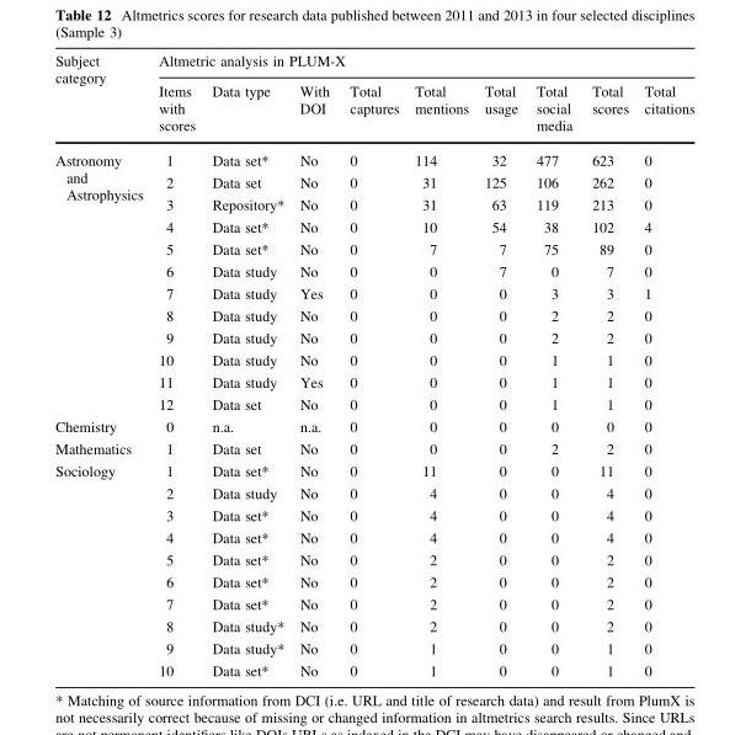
<table><thead><tr><td rowspan="2">Subject category</td><td colspan="9">Altmetric analysis in PLUM-X</td></tr><tr><td>Items with scores</td><td>Data type</td><td>With DOI</td><td>Total captures</td><td>Total mentions</td><td>Total usage</td><td>Total social media</td><td>Total scores</td><td>Total citations</td></tr></thead><tbody><tr><td rowspan="12">Astronomy and Astrophysics</td><td>1</td><td>Data set*</td><td>No</td><td>0</td><td>114</td><td>32</td><td>477</td><td>623</td><td>0</td></tr><tr><td>2</td><td>Data set</td><td>No</td><td>0</td><td>31</td><td>125</td><td>106</td><td>262</td><td>0</td></tr><tr><td>3</td><td>Repository*</td><td>No</td><td>0</td><td>31</td><td>63</td><td>119</td><td>213</td><td>0</td></tr><tr><td>4</td><td>Data set*</td><td>No</td><td>0</td><td>10</td><td>54</td><td>38</td><td>102</td><td>4</td></tr><tr><td>5</td><td>Data set*</td><td>No</td><td>0</td><td>7</td><td>7</td><td>75</td><td>89</td><td>0</td></tr><tr><td>6</td><td>Data study</td><td>No</td><td>0</td><td>0</td><td>7</td><td>0</td><td>7</td><td>0</td></tr><tr><td>7</td><td>Data study</td><td>Yes</td><td>0</td><td>0</td><td>0</td><td>3</td><td>3</td><td>1</td></tr><tr><td>8</td><td>Data study</td><td>No</td><td>0</td><td>0</td><td>0</td><td>2</td><td>2</td><td>0</td></tr><tr><td>9</td><td>Data study</td><td>No</td><td>0</td><td>0</td><td>0</td><td>2</td><td>2</td><td>0</td></tr><tr><td>10</td><td>Data study</td><td>No</td><td>0</td><td>0</td><td>0</td><td>1</td><td>1</td><td>0</td></tr><tr><td>11</td><td>Data study</td><td>Yes</td><td>0</td><td>0</td><td>0</td><td>1</td><td>1</td><td>0</td></tr><tr><td>12</td><td>Data set</td><td>No</td><td>0</td><td>0</td><td>0</td><td>1</td><td>1</td><td>0</td></tr><tr><td>Chemistry</td><td>0</td><td>n.a.</td><td>n.a.</td><td>0</td><td>0</td><td>0</td><td>0</td><td>0</td><td>0</td></tr><tr><td>Mathematics</td><td>1</td><td>Data set</td><td>No</td><td>0</td><td>0</td><td>0</td><td>2</td><td>2</td><td>0</td></tr><tr><td rowspan="10">Sociology</td><td>1</td><td>Data set*</td><td>No</td><td>0</td><td>11</td><td>0</td><td>0</td><td>11</td><td>0</td></tr><tr><td>2</td><td>Data study</td><td>No</td><td>0</td><td>4</td><td>0</td><td>0</td><td>4</td><td>0</td></tr><tr><td>3</td><td>Data set*</td><td>No</td><td>0</td><td>4</td><td>0</td><td>0</td><td>4</td><td>0</td></tr><tr><td>4</td><td>Data set*</td><td>No</td><td>0</td><td>4</td><td>0</td><td>0</td><td>4</td><td>0</td></tr><tr><td>5</td><td>Data set*</td><td>No</td><td>0</td><td>2</td><td>0</td><td>0</td><td>2</td><td>0</td></tr><tr><td>6</td><td>Data set*</td><td>No</td><td>0</td><td>2</td><td>0</td><td>0</td><td>2</td><td>0</td></tr><tr><td>7</td><td>Data set*</td><td>No</td><td>0</td><td>2</td><td>0</td><td>0</td><td>2</td><td>0</td></tr><tr><td>8</td><td>Data study*</td><td>No</td><td>0</td><td>2</td><td>0</td><td>0</td><td>2</td><td>0</td></tr><tr><td>9</td><td>Data study*</td><td>No</td><td>0</td><td>1</td><td>0</td><td>0</td><td>1</td><td>0</td></tr><tr><td>10</td><td>Data set*</td><td>No</td><td>0</td><td>1</td><td>0</td><td>0</td><td>1</td><td>0</td></tr></tbody></table>